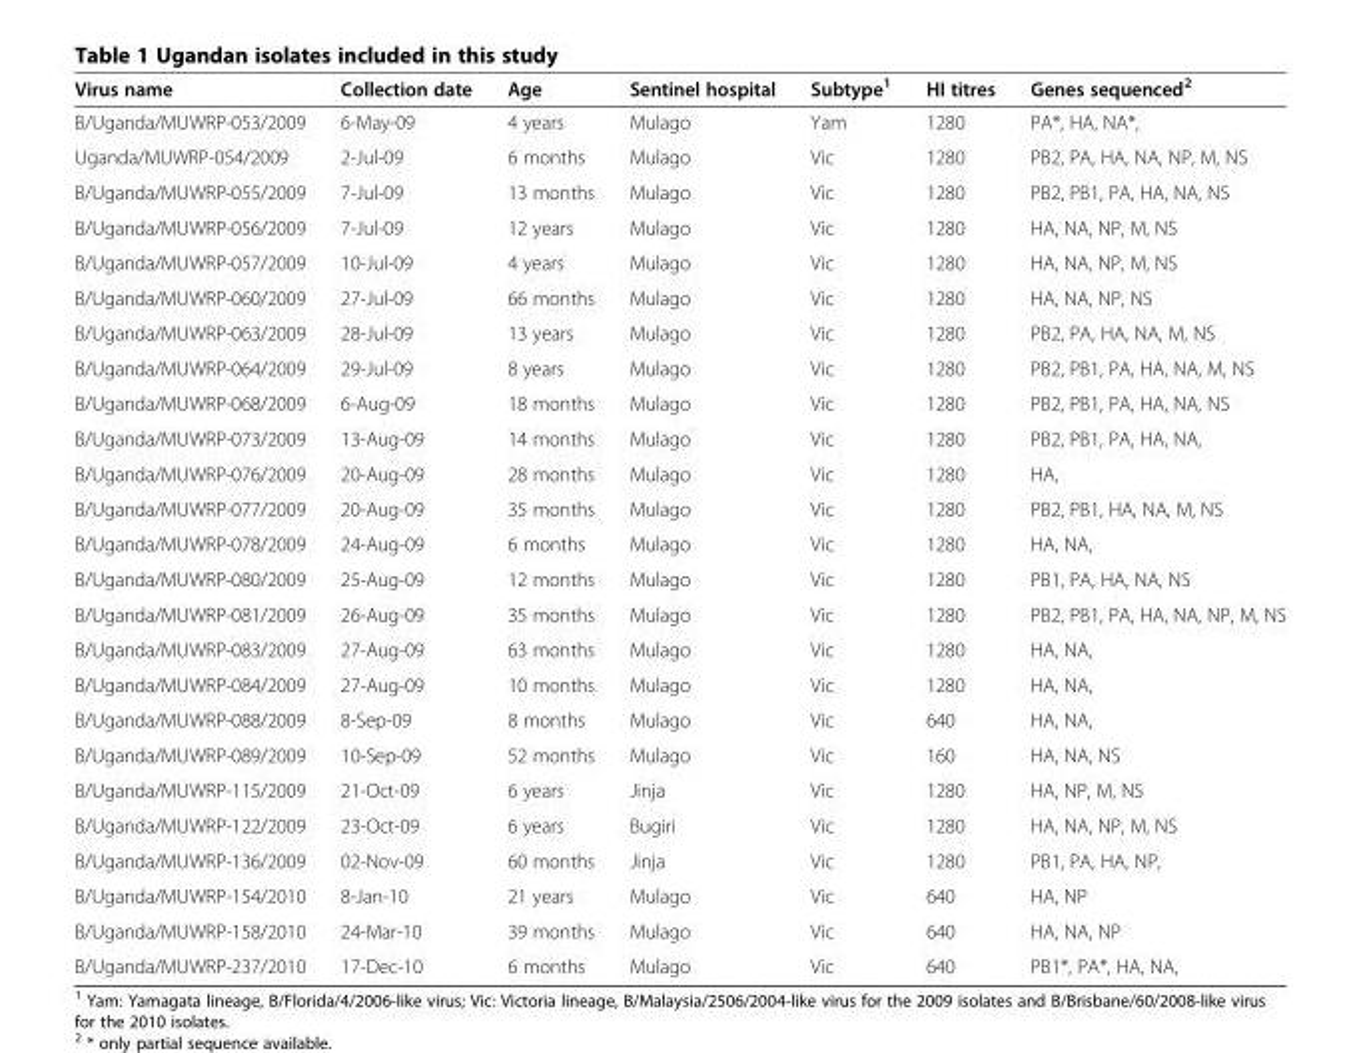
<table><thead><tr><td>Virus name</td><td>Collection date</td><td>Age</td><td>Sentinel hospital</td><td>Subtype<sup>1</sup></td><td>HI titres</td><td>Genes sequenced<sup>2</sup></td></tr></thead><tbody><tr><td>B/Uganda/MUWRP-053/2009</td><td>6-May-09</td><td>4 years</td><td>Mulago</td><td>Yam</td><td>1280</td><td>PA*, HA, NA*,</td></tr><tr><td>Uganda/MUWRP-054/2009</td><td>2-Jul-09</td><td>6 months</td><td>Mulago</td><td>Vic</td><td>1280</td><td>PB2, PA, HA, NA, NP, M, NS</td></tr><tr><td>B/Uganda/MUWRP-055/2009</td><td>7-Jul-09</td><td>13 months</td><td>Mulago</td><td>Vic</td><td>1280</td><td>PB2, PB1, PA, HA, NA, NS</td></tr><tr><td>B/Uganda/MUWRP-056/2009</td><td>7-Jul-09</td><td>12 years</td><td>Mulago</td><td>Vic</td><td>1280</td><td>HA, NA, NP, M, NS</td></tr><tr><td>B/Uganda/MUWRP-057/2009</td><td>10-Jul-09</td><td>4 years</td><td>Mulago</td><td>Vic</td><td>1280</td><td>HA, NA, NP, M, NS</td></tr><tr><td>B/Uganda/MUWRP-060/2009</td><td>27-Jul-09</td><td>66 months</td><td>Mulago</td><td>Vic</td><td>1280</td><td>HA, NA, NP, NS</td></tr><tr><td>B/Uganda/MUWRP-063/2009</td><td>28-Jul-09</td><td>13 years</td><td>Mulago</td><td>Vic</td><td>1280</td><td>PB2, PA, HA, NA, M, NS</td></tr><tr><td>B/Uganda/MUWRP-064/2009</td><td>29-Jul-09</td><td>8 years</td><td>Mulago</td><td>Vic</td><td>1280</td><td>PB2, PB1, PA, HA, NA, M, NS</td></tr><tr><td>B/Uganda/MUWRP-068/2009</td><td>6-Aug-09</td><td>18 months</td><td>Mulago</td><td>Vic</td><td>1280</td><td>PB2, PB1, PA, HA, NA, NS</td></tr><tr><td>B/Uganda/MUWRP-073/2009</td><td>13-Aug-09</td><td>14 months</td><td>Mulago</td><td>Vic</td><td>1280</td><td>PB2, PB1, PA, HA, NA,</td></tr><tr><td>B/Uganda/MUWRP-076/2009</td><td>20-Aug-09</td><td>28 months</td><td>Mulago</td><td>Vic</td><td>1280</td><td>HA,</td></tr><tr><td>B/Uganda/MUWRP-077/2009</td><td>20-Aug-09</td><td>35 months</td><td>Mulago</td><td>Vic</td><td>1280</td><td>PB2, PB1, HA, NA, M, NS</td></tr><tr><td>B/Uganda/MUWRP-078/2009</td><td>24-Aug-09</td><td>6 months</td><td>Mulago</td><td>Vic</td><td>1280</td><td>HA, NA,</td></tr><tr><td>B/Uganda/MUWRP-080/2009</td><td>25-Aug-09</td><td>12 months</td><td>Mulago</td><td>Vic</td><td>1280</td><td>PB1, PA, HA, NA, NS</td></tr><tr><td>B/Uganda/MUWRP-081/2009</td><td>26-Aug-09</td><td>35 months</td><td>Mulago</td><td>Vic</td><td>1280</td><td>PB2, PB1, PA, HA, NA, NP, M, NS</td></tr><tr><td>B/Uganda/MUWRP-083/2009</td><td>27-Aug-09</td><td>63 months</td><td>Mulago</td><td>Vic</td><td>1280</td><td>HA, NA,</td></tr><tr><td>B/Uganda/MUWRP-084/2009</td><td>27-Aug-09</td><td>10 months</td><td>Mulago</td><td>Vic</td><td>1280</td><td>HA, NA,</td></tr><tr><td>B/Uganda/MUWRP-088/2009</td><td>8-Sep-09</td><td>8 months</td><td>Mulago</td><td>Vic</td><td>640</td><td>HA, NA,</td></tr><tr><td>B/Uganda/MUWRP-089/2009</td><td>10-Sep-09</td><td>52 months</td><td>Mulago</td><td>Vic</td><td>160</td><td>HA, NA, NS</td></tr><tr><td>B/Uganda/MUWRP-115/2009</td><td>21-Oct-09</td><td>6 years</td><td>Jinja</td><td>Vic</td><td>1280</td><td>HA, NP, M, NS</td></tr><tr><td>B/Uganda/MUWRP-122/2009</td><td>23-Oct-09</td><td>6 years</td><td>Bugiri</td><td>Vic</td><td>1280</td><td>HA, NA, NP, M, NS</td></tr><tr><td>B/Uganda/MUWRP-136/2009</td><td>02-Nov-09</td><td>60 months</td><td>Jinja</td><td>Vic</td><td>1280</td><td>PB1, PA, HA, NP,</td></tr><tr><td>B/Uganda/MUWRP-154/2010</td><td>8-Jan-10</td><td>21 years</td><td>Mulago</td><td>Vic</td><td>640</td><td>HA, NP</td></tr><tr><td>B/Uganda/MUWRP-158/2010</td><td>24-Mar-10</td><td>39 months</td><td>Mulago</td><td>Vic</td><td>640</td><td>HA, NA, NP</td></tr><tr><td>B/Uganda/MUWRP-237/2010</td><td>17-Dec-10</td><td>6 months</td><td>Mulago</td><td>Vic</td><td>640</td><td>PB1*, PA*, HA, NA,</td></tr></tbody></table>